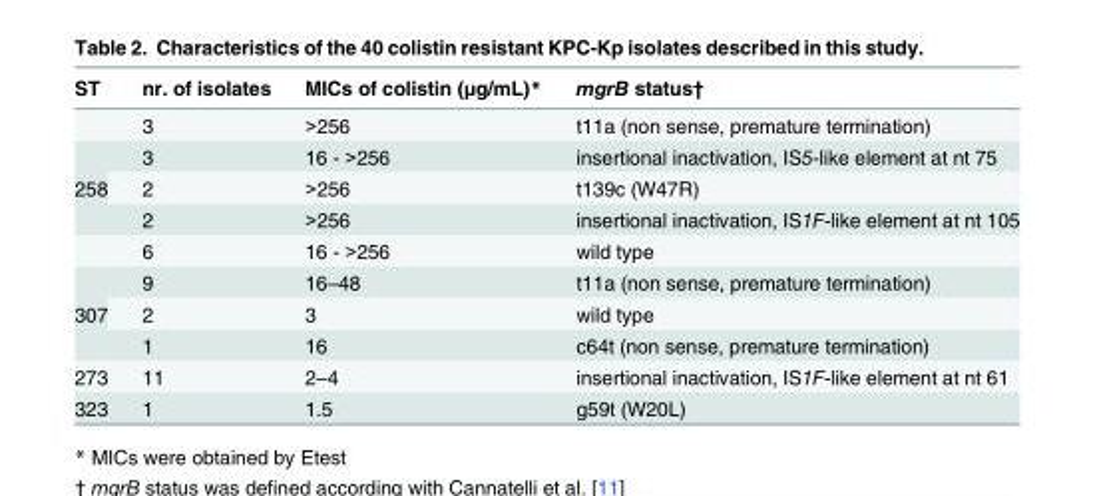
<table><thead><tr><td>ST</td><td>nr. of isolates</td><td>MICs of colistin (μg/mL)*</td><td>mgrB status†</td></tr></thead><tbody><tr><td></td><td>3</td><td>&gt;256</td><td>t11a (non sense, premature termination)</td></tr><tr><td rowspan="4">258</td><td>3</td><td>16 - &gt;256</td><td>insertional inactivation, IS5-like element at nt 75</td></tr><tr><td>2</td><td>&gt;256</td><td>t139c (W47R)</td></tr><tr><td>2</td><td>&gt;256</td><td>insertional inactivation, IS1F-like element at nt 105</td></tr><tr><td>6</td><td>16 - &gt;256</td><td>wild type</td></tr><tr><td rowspan="3">307</td><td>9</td><td>16–48</td><td>t11a (non sense, premature termination)</td></tr><tr><td>2</td><td>3</td><td>wild type</td></tr><tr><td>1</td><td>16</td><td>c64t (non sense, premature termination)</td></tr><tr><td>273</td><td>11</td><td>2–4</td><td>insertional inactivation, IS1F-like element at nt 61</td></tr><tr><td>323</td><td>1</td><td>1.5</td><td>g59t (W20L)</td></tr></tbody></table>